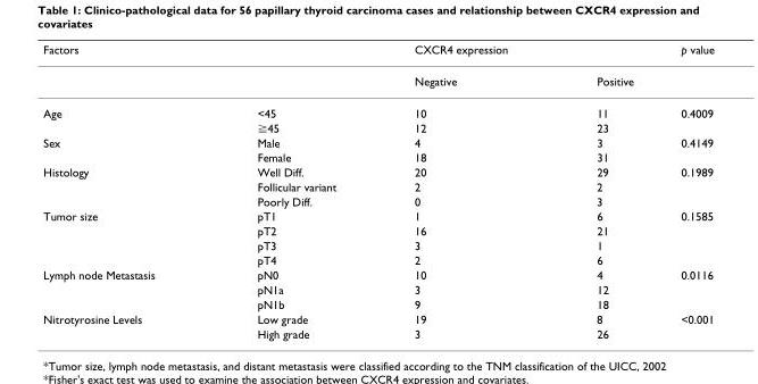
<table><thead><tr><td>Factors</td><td></td><td>CXCR4 expression</td><td></td><td>p value</td></tr></thead><tbody><tr><td></td><td></td><td>Negative</td><td>Positive</td><td></td></tr><tr><td rowspan="2">Age</td><td>&lt;45</td><td>10</td><td>11</td><td>0.4009</td></tr><tr><td>≧45</td><td>12</td><td>23</td><td></td></tr><tr><td rowspan="2">Sex</td><td>Male</td><td>4</td><td>3</td><td>0.4149</td></tr><tr><td>Female</td><td>18</td><td>31</td><td></td></tr><tr><td rowspan="3">Histology</td><td>Well Diff.</td><td>20</td><td>29</td><td>0.1989</td></tr><tr><td>Follicular variant</td><td>2</td><td>2</td><td></td></tr><tr><td>Poorly Diff.</td><td>0</td><td>3</td><td></td></tr><tr><td rowspan="4">Tumor size</td><td>pT1</td><td>1</td><td>6</td><td>0.1585</td></tr><tr><td>pT2</td><td>16</td><td>21</td><td></td></tr><tr><td>pT3</td><td>3</td><td>1</td><td></td></tr><tr><td>pT4</td><td>2</td><td>6</td><td></td></tr><tr><td rowspan="3">Lymph node Metastasis</td><td>pN0</td><td>10</td><td>4</td><td>0.0116</td></tr><tr><td>pN1a</td><td>3</td><td>12</td><td></td></tr><tr><td>pN1b</td><td>9</td><td>18</td><td></td></tr><tr><td rowspan="2">Nitrotyrosine Levels</td><td>Low grade</td><td>19</td><td>8</td><td>&lt;0.001</td></tr><tr><td>High grade</td><td>3</td><td>26</td><td></td></tr></tbody></table>